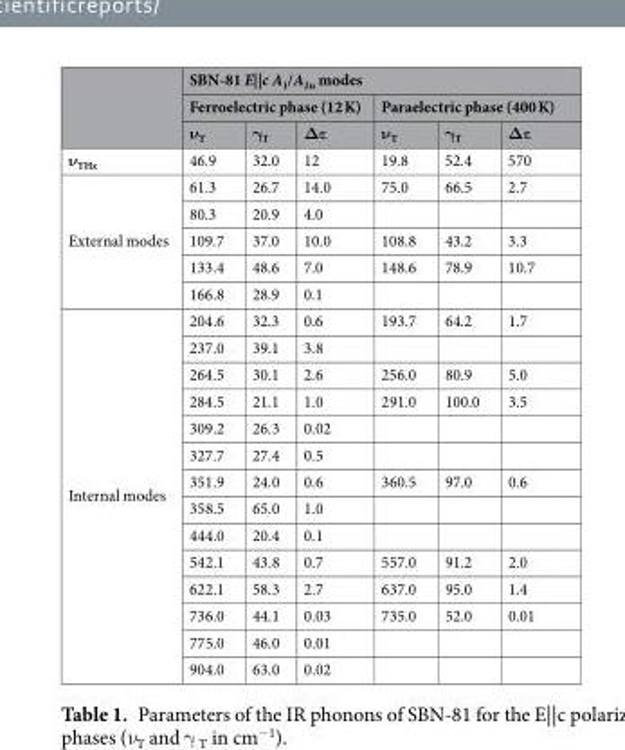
<table><thead><tr><td rowspan="3"></td><td colspan="6">SBN-81 E||c A<sub>1</sub>/A<sub>2u</sub> modes</td></tr><tr><td colspan="3">Ferroelectric phase (12 K)</td><td colspan="3">Paraelectric phase (400 K)</td></tr><tr><td>ν<sub>T</sub></td><td>γ<sub>T</sub></td><td>Δε</td><td>ν<sub>T</sub></td><td>γ<sub>T</sub></td><td>Δε</td></tr></thead><tbody><tr><td>ν<sub>THz</sub></td><td>46.9</td><td>32.0</td><td>12</td><td>19.8</td><td>52.4</td><td>570</td></tr><tr><td rowspan="5">External modes</td><td>61.3</td><td>26.7</td><td>14.0</td><td>75.0</td><td>66.5</td><td>2.7</td></tr><tr><td>80.3</td><td>20.9</td><td>4.0</td><td></td><td></td><td></td></tr><tr><td>109.7</td><td>37.0</td><td>10.0</td><td>108.8</td><td>43.2</td><td>3.3</td></tr><tr><td>133.4</td><td>48.6</td><td>7.0</td><td>148.6</td><td>78.9</td><td>10.7</td></tr><tr><td>166.8</td><td>28.9</td><td>0.1</td><td></td><td></td><td></td></tr><tr><td rowspan="14">Internal modes</td><td>204.6</td><td>32.3</td><td>0.6</td><td>193.7</td><td>64.2</td><td>1.7</td></tr><tr><td>237.0</td><td>39.1</td><td>3.8</td><td></td><td></td><td></td></tr><tr><td>264.5</td><td>30.1</td><td>2.6</td><td>256.0</td><td>80.9</td><td>5.0</td></tr><tr><td>284.5</td><td>21.1</td><td>1.0</td><td>291.0</td><td>100.0</td><td>3.5</td></tr><tr><td>309.2</td><td>26.3</td><td>0.02</td><td></td><td></td><td></td></tr><tr><td>327.7</td><td>27.4</td><td>0.5</td><td></td><td></td><td></td></tr><tr><td>351.9</td><td>24.0</td><td>0.6</td><td>360.5</td><td>97.0</td><td>0.6</td></tr><tr><td>358.5</td><td>65.0</td><td>1.0</td><td></td><td></td><td></td></tr><tr><td>444.0</td><td>20.4</td><td>0.1</td><td></td><td></td><td></td></tr><tr><td>542.1</td><td>43.8</td><td>0.7</td><td>557.0</td><td>91.2</td><td>2.0</td></tr><tr><td>622.1</td><td>58.3</td><td>2.7</td><td>637.0</td><td>95.0</td><td>1.4</td></tr><tr><td>736.0</td><td>44.1</td><td>0.03</td><td>735.0</td><td>52.0</td><td>0.01</td></tr><tr><td>775.0</td><td>46.0</td><td>0.01</td><td></td><td></td><td></td></tr><tr><td>904.0</td><td>63.0</td><td>0.02</td><td></td><td></td><td></td></tr></tbody></table>